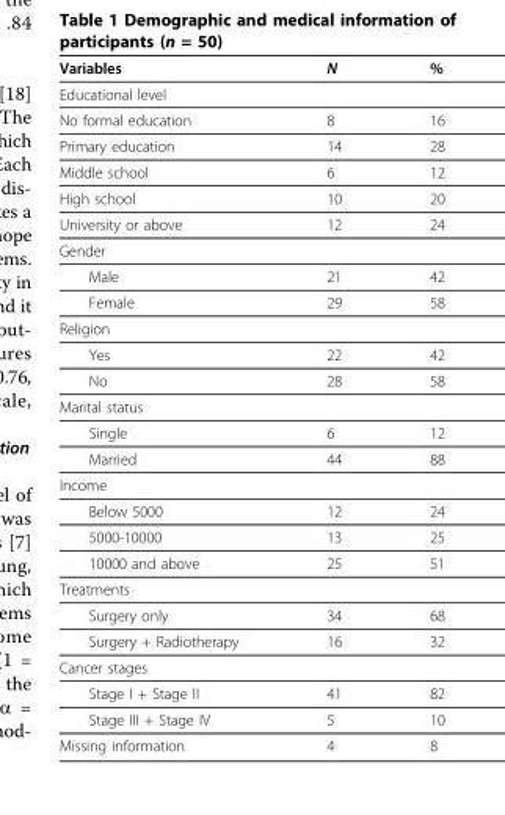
<table><thead><tr><td>Variables</td><td>N</td><td>%</td></tr></thead><tbody><tr><td colspan="3">Educational level</td></tr><tr><td>No formal education</td><td>8</td><td>16</td></tr><tr><td>Primary education</td><td>14</td><td>28</td></tr><tr><td>Middle school</td><td>6</td><td>12</td></tr><tr><td>High school</td><td>10</td><td>20</td></tr><tr><td>University or above</td><td>12</td><td>24</td></tr><tr><td colspan="3">Gender</td></tr><tr><td>Male</td><td>21</td><td>42</td></tr><tr><td>Female</td><td>29</td><td>58</td></tr><tr><td colspan="3">Religion</td></tr><tr><td>Yes</td><td>22</td><td>42</td></tr><tr><td>No</td><td>28</td><td>58</td></tr><tr><td colspan="3">Marital status</td></tr><tr><td>Single</td><td>6</td><td>12</td></tr><tr><td>Married</td><td>44</td><td>88</td></tr><tr><td colspan="3">Income</td></tr><tr><td>Below 5000</td><td>12</td><td>24</td></tr><tr><td>5000-10000</td><td>13</td><td>25</td></tr><tr><td>10000 and above</td><td>25</td><td>51</td></tr><tr><td colspan="3">Treatments</td></tr><tr><td>Surgery only</td><td>34</td><td>68</td></tr><tr><td>Surgery + Radiotherapy</td><td>16</td><td>32</td></tr><tr><td colspan="3">Cancer stages</td></tr><tr><td>Stage I + Stage II</td><td>41</td><td>82</td></tr><tr><td>Stage III + Stage IV</td><td>5</td><td>10</td></tr><tr><td>Missing information</td><td>4</td><td>8</td></tr></tbody></table>